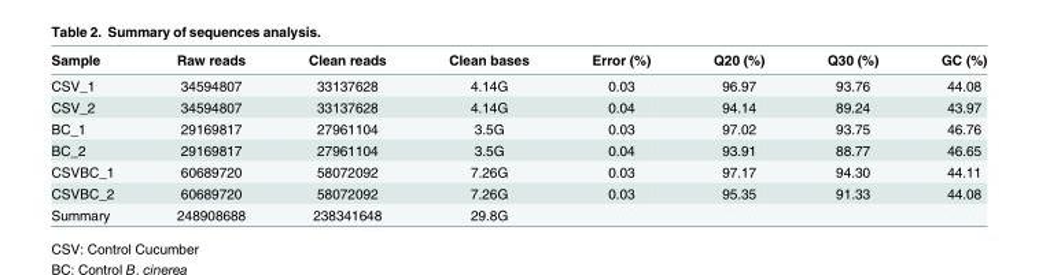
<table><thead><tr><td>Sample</td><td>Raw reads</td><td>Clean reads</td><td>Clean bases</td><td>Error (%)</td><td>Q20 (%)</td><td>Q30 (%)</td><td>GC (%)</td></tr></thead><tbody><tr><td>CSV_1</td><td>34594807</td><td>33137628</td><td>4.14G</td><td>0.03</td><td>96.97</td><td>93.76</td><td>44.08</td></tr><tr><td>CSV_2</td><td>34594807</td><td>33137628</td><td>4.14G</td><td>0.04</td><td>94.14</td><td>89.24</td><td>43.97</td></tr><tr><td>BC_1</td><td>29169817</td><td>27961104</td><td>3.5G</td><td>0.03</td><td>97.02</td><td>93.75</td><td>46.76</td></tr><tr><td>BC_2</td><td>29169817</td><td>27961104</td><td>3.5G</td><td>0.04</td><td>93.91</td><td>88.77</td><td>46.65</td></tr><tr><td>CSVBC_1</td><td>60689720</td><td>58072092</td><td>7.26G</td><td>0.03</td><td>97.17</td><td>94.30</td><td>44.11</td></tr><tr><td>CSVBC_2</td><td>60689720</td><td>58072092</td><td>7.26G</td><td>0.03</td><td>95.35</td><td>91.33</td><td>44.08</td></tr><tr><td>Summary</td><td>248908688</td><td>238341648</td><td>29.8G</td><td></td><td></td><td></td><td></td></tr></tbody></table>